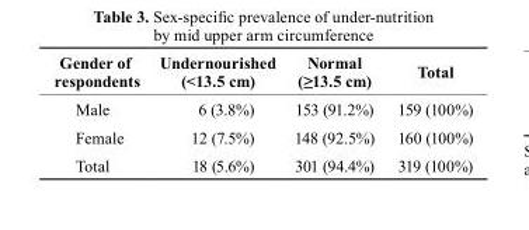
<table><thead><tr><td>Gender of respondents</td><td>Undernourished (&lt;13.5 cm)</td><td>Normal (≥13.5 cm)</td><td>total</td></tr></thead><tbody><tr><td>Male</td><td>6 (3.8%)</td><td>153 (91.2%)</td><td>159 (100%)</td></tr><tr><td>Female</td><td>12 (7.5%)</td><td>148 (92.5%)</td><td>160 (100%)</td></tr><tr><td>Total</td><td>18 (5.6%)</td><td>301 (94.4%)</td><td>319 (100%)</td></tr></tbody></table>